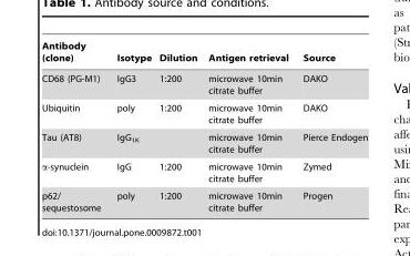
<table><thead><tr><td>Antibody (clone)</td><td>Isotype</td><td>Dilution</td><td>Antigen retrieval</td><td>Source</td></tr></thead><tbody><tr><td>CD68 (PG-M1)</td><td>IgG3</td><td>1:200</td><td>microwave 10min citrate buffer</td><td>DAKO</td></tr><tr><td>Ubiquitin</td><td>poly</td><td>1:200</td><td>microwave 10min citrate buffer</td><td>DAKO</td></tr><tr><td>Tau (AT8)</td><td>IgG<sub>1K</sub></td><td></td><td>microwave 10min citrate buffer</td><td>Pierce Endogen</td></tr><tr><td>α-synuclein</td><td>IgG</td><td>1:200</td><td>microwave 10min citrate buffer</td><td>Zymed</td></tr><tr><td>p62/ sequestosome</td><td>poly</td><td>1:200</td><td>microwave 10min citrate buffer</td><td>Progen</td></tr></tbody></table>